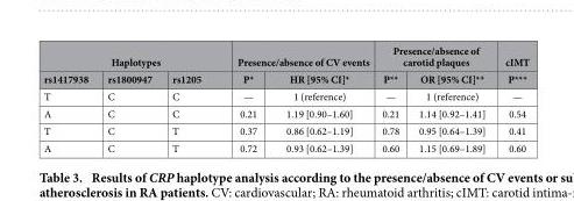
<table><thead><tr><td colspan="3">Haplotypes</td><td colspan="2">Presence/absence of CV events</td><td colspan="2">Presence/absence of carotid plaques</td><td rowspan="2">cIMT P***</td></tr><tr><td>rs1417938</td><td>rs1800947</td><td>rs1205</td><td>P*</td><td>HR [95% CI]*</td><td>P**</td><td>OR [95% CI]**</td></tr></thead><tbody><tr><td>T</td><td>C</td><td>C</td><td>—</td><td>1 (reference)</td><td>—</td><td>1 (reference)</td><td>—</td></tr><tr><td>A</td><td>C</td><td>C</td><td>0.21</td><td>1.19 [0.90–1.60]</td><td>0.21</td><td>1.14 [0.92–1.41]</td><td>0.54</td></tr><tr><td>T</td><td>C</td><td>T</td><td>0.37</td><td>0.86 [0.62–1.19]</td><td>0.78</td><td>0.95 [0.64–1.39]</td><td>0.41</td></tr><tr><td>A</td><td>C</td><td>T</td><td>0.72</td><td>0.93 [0.62–1.39]</td><td>0.60</td><td>1.15 [0.69–1.89]</td><td>0.60</td></tr></tbody></table>